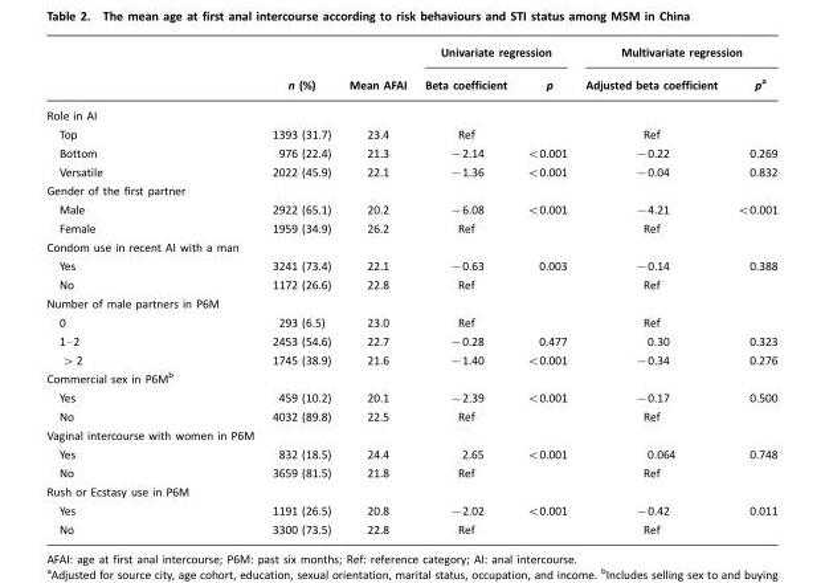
<table><thead><tr><td rowspan="2"></td><td rowspan="2">n (%)</td><td rowspan="2">Mean AFAI</td><td colspan="2">Univariate regression</td><td colspan="2">Multivariate regression</td></tr><tr><td>Beta coefficient</td><td>p</td><td>Adjusted beta coefficient</td><td>p<sup>a</sup></td></tr></thead><tbody><tr><td colspan="7">Role in AI</td></tr><tr><td>Top</td><td>1393 (31.7)</td><td>23.4</td><td>Ref</td><td></td><td>Ref</td><td></td></tr><tr><td>Bottom</td><td>976 (22.4)</td><td>21.3</td><td>−2.14</td><td>&lt;0.001</td><td>−0.22</td><td>0.269</td></tr><tr><td>Versatile</td><td>2022 (45.9)</td><td>22.1</td><td>−1.36</td><td>&lt;0.001</td><td>−0.04</td><td>0.832</td></tr><tr><td colspan="7">Gender of the first partner</td></tr><tr><td>Male</td><td>2922 (65.1)</td><td>20.2</td><td>−6.08</td><td>&lt;0.001</td><td>−4.21</td><td>&lt;0.001</td></tr><tr><td>Female</td><td>1959 (34.9)</td><td>26.2</td><td>Ref</td><td></td><td>Ref</td><td></td></tr><tr><td colspan="7">Condom use in recent AI with a man</td></tr><tr><td>Yes</td><td>3241 (73.4)</td><td>22.1</td><td>−0.63</td><td>0.003</td><td>−0.14</td><td>0.388</td></tr><tr><td>No</td><td>1172 (26.6)</td><td>22.8</td><td>Ref</td><td></td><td>Ref</td><td></td></tr><tr><td colspan="7">Number of male partners in P6M</td></tr><tr><td>0</td><td>293 (6.5)</td><td>23.0</td><td>Ref</td><td></td><td>Ref</td><td></td></tr><tr><td>1–2</td><td>2453 (54.6)</td><td>22.7</td><td>−0.28</td><td>0.477</td><td>0.30</td><td>0.323</td></tr><tr><td>&gt;2</td><td>1745 (38.9)</td><td>21.6</td><td>−1.40</td><td>&lt;0.001</td><td>−0.34</td><td>0.276</td></tr><tr><td colspan="7">Commercial sex in P6M<sup>b</sup></td></tr><tr><td>Yes</td><td>459 (10.2)</td><td>20.1</td><td>−2.39</td><td>&lt;0.001</td><td>−0.17</td><td>0.500</td></tr><tr><td>No</td><td>4032 (89.8)</td><td>22.5</td><td>Ref</td><td></td><td>Ref</td><td></td></tr><tr><td colspan="7">Vaginal intercourse with women in P6M</td></tr><tr><td>Yes</td><td>832 (18.5)</td><td>24.4</td><td>2.65</td><td>&lt;0.001</td><td>0.064</td><td>0.748</td></tr><tr><td>No</td><td>3659 (81.5)</td><td>21.8</td><td>Ref</td><td></td><td>Ref</td><td></td></tr><tr><td colspan="7">Rush or Ecstasy use in P6M</td></tr><tr><td>Yes</td><td>1191 (26.5)</td><td>20.8</td><td>−2.02</td><td>&lt;0.001</td><td>−0.42</td><td>0.011</td></tr><tr><td>No</td><td>3300 (73.5)</td><td>22.8</td><td>Ref</td><td></td><td>Ref</td><td></td></tr></tbody></table>